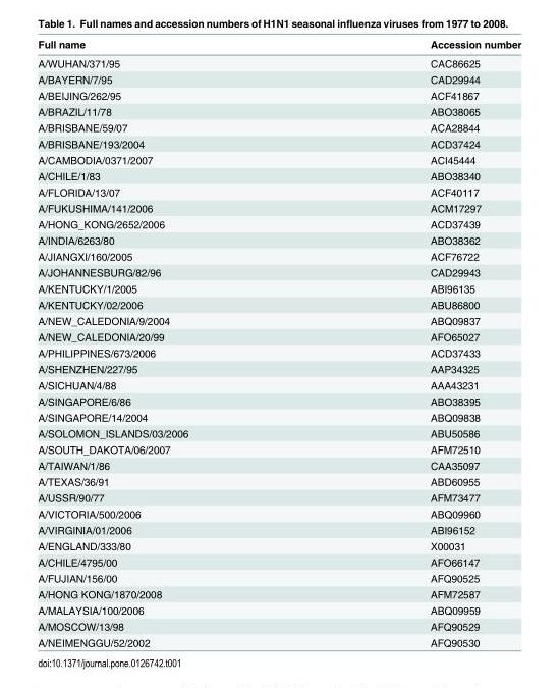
<table><thead><tr><td>Full name</td><td>Accession number</td></tr></thead><tbody><tr><td>A/WUHAN/371/95</td><td>CAC86625</td></tr><tr><td>A/BAYERN/7/95</td><td>CAD29944</td></tr><tr><td>A/BEIJING/262/95</td><td>ACF41867</td></tr><tr><td>A/BRAZIL/11/78</td><td>ABO38065</td></tr><tr><td>A/BRISBANE/59/07</td><td>ACA28844</td></tr><tr><td>A/BRISBANE/193/2004</td><td>ACD37424</td></tr><tr><td>A/CAMBODIA/0371/2007</td><td>ACI45444</td></tr><tr><td>A/CHILE/1/83</td><td>ABO38340</td></tr><tr><td>A/FLORIDA/13/07</td><td>ACF40117</td></tr><tr><td>A/FUKUSHIMA/141/2006</td><td>ACM17297</td></tr><tr><td>A/HONG_KONG/2652/2006</td><td>ACD37439</td></tr><tr><td>A/INDIA/6263/80</td><td>ABO38362</td></tr><tr><td>A/JIANGXI/160/2005</td><td>ACF76722</td></tr><tr><td>A/JOHANNESBURG/82/96</td><td>CAD29943</td></tr><tr><td>A/KENTUCKY/1/2005</td><td>ABI96135</td></tr><tr><td>A/KENTUCKY/02/2006</td><td>ABU86800</td></tr><tr><td>A/NEW_CALEDONIA/9/2004</td><td>ABQ09837</td></tr><tr><td>A/NEW_CALEDONIA/20/99</td><td>AFO65027</td></tr><tr><td>A/PHILIPPINES/673/2006</td><td>ACD37433</td></tr><tr><td>A/SHENZHEN/227/95</td><td>AAP34325</td></tr><tr><td>A/SICHUAN/4/88</td><td>AAA43231</td></tr><tr><td>A/SINGAPORE/6/86</td><td>ABO38395</td></tr><tr><td>A/SINGAPORE/14/2004</td><td>ABQ09838</td></tr><tr><td>A/SOLOMON_ISLANDS/03/2006</td><td>ABU50586</td></tr><tr><td>A/SOUTH_DAKOTA/06/2007</td><td>AFM72510</td></tr><tr><td>A/TAIWAN/1/86</td><td>CAA35097</td></tr><tr><td>A/TEXAS/36/91</td><td>ABD60955</td></tr><tr><td>A/USSR/90/77</td><td>AFM73477</td></tr><tr><td>A/VICTORIA/500/2006</td><td>ABQ09960</td></tr><tr><td>A/VIRGINIA/01/2006</td><td>ABI96152</td></tr><tr><td>A/ENGLAND/333/80</td><td>X00031</td></tr><tr><td>A/CHILE/4795/00</td><td>AFO66147</td></tr><tr><td>A/FUJIAN/156/00</td><td>AFQ90525</td></tr><tr><td>A/HONG KONG/1870/2008</td><td>AFM72587</td></tr><tr><td>A/MALAYSIA/100/2006</td><td>ABQ09959</td></tr><tr><td>A/MOSCOW/13/98</td><td>AFQ90529</td></tr><tr><td>A/NEIMENGGU/52/2002</td><td>AFQ90530</td></tr></tbody></table>